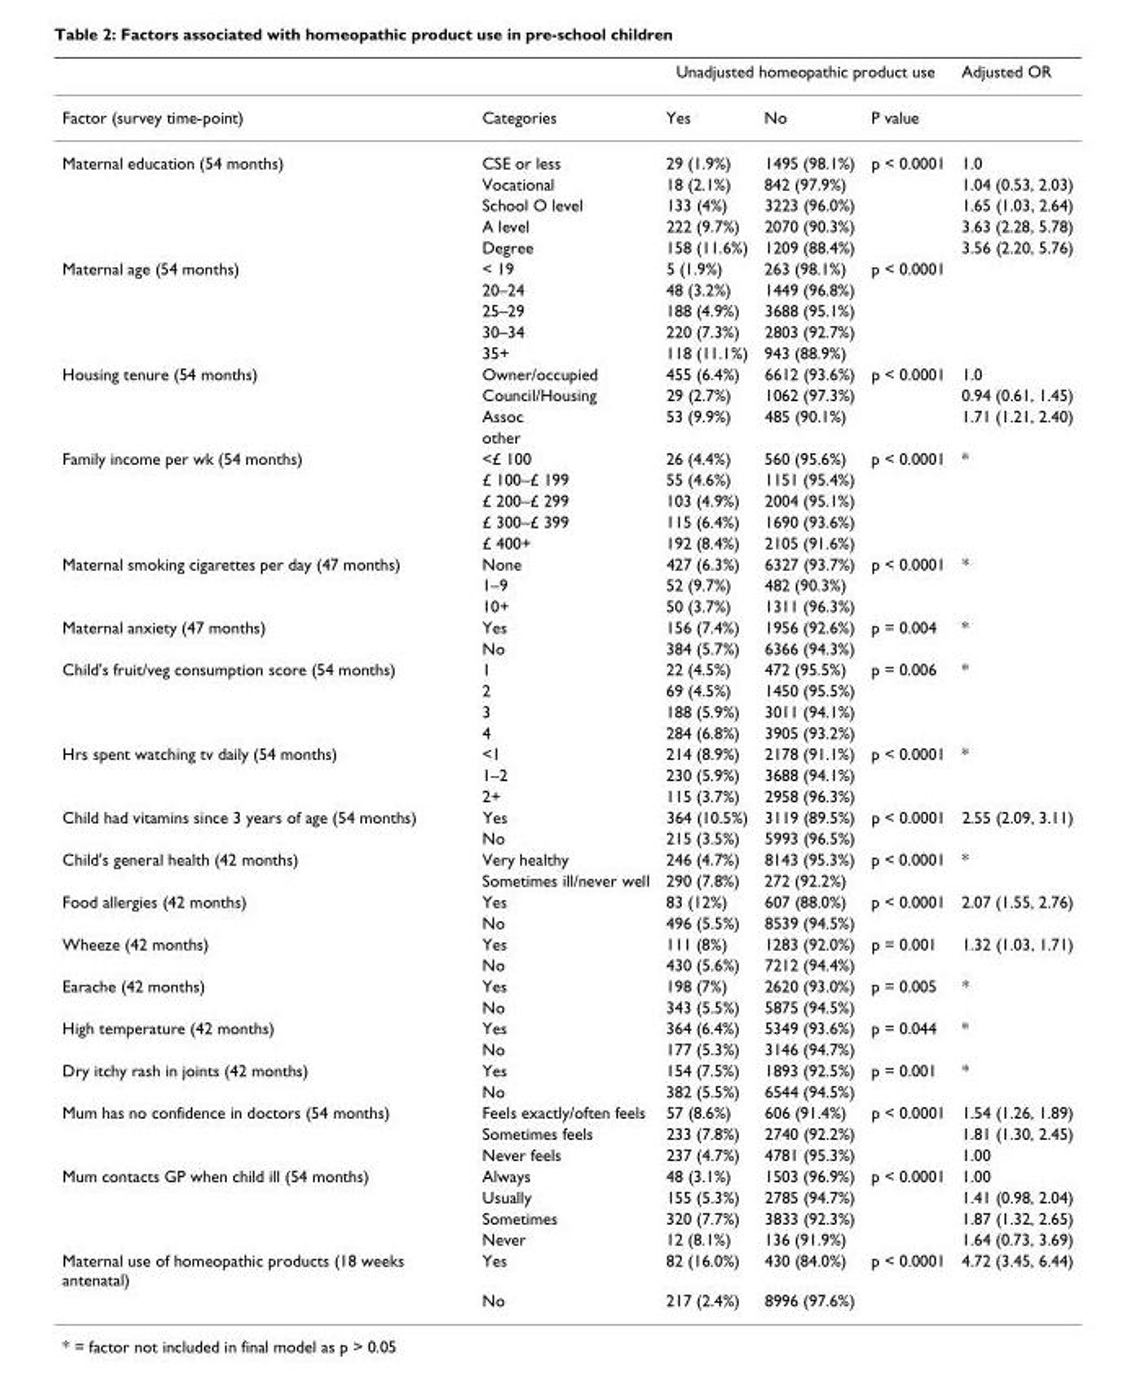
<table><thead><tr><td rowspan="2">Factor (survey time-point)</td><td rowspan="2">Categories</td><td colspan="3">Unadjusted homeopathic product use</td><td rowspan="2">Adjusted OR</td></tr><tr><td>Yes</td><td>No</td><td>P value</td></tr></thead><tbody><tr><td rowspan="5">Maternal education (54 months)</td><td>CSE or less</td><td>29 (1.9%)</td><td>1495 (98.1%)</td><td>p &lt; 0.0001</td><td>1.0</td></tr><tr><td>Vocational</td><td>18 (2.1%)</td><td>842 (97.9%)</td><td></td><td>1.04 (0.53, 2.03)</td></tr><tr><td>School O level</td><td>133 (4%)</td><td>3223 (96.0%)</td><td></td><td>1.65 (1.03, 2.64)</td></tr><tr><td>A level</td><td>222 (9.7%)</td><td>2070 (90.3%)</td><td></td><td>3.63 (2.28, 5.78)</td></tr><tr><td>Degree</td><td>158 (11.6%)</td><td>1209 (88.4%)</td><td></td><td>3.56 (2.20, 5.76)</td></tr><tr><td rowspan="5">Maternal age (54 months)</td><td>&lt; 19</td><td>5 (1.9%)</td><td>263 (98.1%)</td><td>p &lt; 0.0001</td><td></td></tr><tr><td>20–24</td><td>48 (3.2%)</td><td>1449 (96.8%)</td><td></td><td></td></tr><tr><td>25–29</td><td>188 (4.9%)</td><td>3688 (95.1%)</td><td></td><td></td></tr><tr><td>30–34</td><td>220 (7.3%)</td><td>2803 (92.7%)</td><td></td><td></td></tr><tr><td>35+</td><td>118 (11.1%)</td><td>943 (88.9%)</td><td></td><td></td></tr><tr><td rowspan="4">Housing tenure (54 months)</td><td>Owner/occupied</td><td>455 (6.4%)</td><td>6612 (93.6%)</td><td>p &lt; 0.0001</td><td>1.0</td></tr><tr><td>Council/Housing</td><td>29 (2.7%)</td><td>1062 (97.3%)</td><td></td><td>0.94 (0.61, 1.45)</td></tr><tr><td>Assoc</td><td>53 (9.9%)</td><td>485 (90.1%)</td><td></td><td>1.71 (1.21, 2.40)</td></tr><tr><td>other</td><td></td><td></td><td></td><td></td></tr><tr><td rowspan="5">Family income per wk (54 months)</td><td>&lt;£ 100</td><td>26 (4.4%)</td><td>560 (95.6%)</td><td>p &lt; 0.0001</td><td>*</td></tr><tr><td>£ 100–£ 199</td><td>55 (4.6%)</td><td>1151 (95.4%)</td><td></td><td></td></tr><tr><td>£ 200–£ 299</td><td>103 (4.9%)</td><td>2004 (95.1%)</td><td></td><td></td></tr><tr><td>£ 300–£ 399</td><td>115 (6.4%)</td><td>1690 (93.6%)</td><td></td><td></td></tr><tr><td>£ 400+</td><td>192 (8.4%)</td><td>2105 (91.6%)</td><td></td><td></td></tr><tr><td rowspan="3">Maternal smoking cigarettes per day (47 months)</td><td>None</td><td>427 (6.3%)</td><td>6327 (93.7%)</td><td>p &lt; 0.0001</td><td>*</td></tr><tr><td>1–9</td><td>52 (9.7%)</td><td>482 (90.3%)</td><td></td><td></td></tr><tr><td>10+</td><td>50 (3.7%)</td><td>1311 (96.3%)</td><td></td><td></td></tr><tr><td rowspan="2">Maternal anxiety (47 months)</td><td>Yes</td><td>156 (7.4%)</td><td>1956 (92.6%)</td><td>p = 0.004</td><td>*</td></tr><tr><td>No</td><td>384 (5.7%)</td><td>6366 (94.3%)</td><td></td><td></td></tr><tr><td rowspan="4">Child&#x27;s fruit/veg consumption score (54 months)</td><td>1</td><td>22 (4.5%)</td><td>472 (95.5%)</td><td>p = 0.006</td><td>*</td></tr><tr><td>2</td><td>69 (4.5%)</td><td>1450 (95.5%)</td><td></td><td></td></tr><tr><td>3</td><td>188 (5.9%)</td><td>3011 (94.1%)</td><td></td><td></td></tr><tr><td>4</td><td>284 (6.8%)</td><td>3905 (93.2%)</td><td></td><td></td></tr><tr><td rowspan="3">Hrs spent watching tv daily (54 months)</td><td>&lt;1</td><td>214 (8.9%)</td><td>2178 (91.1%)</td><td>p &lt; 0.0001</td><td>*</td></tr><tr><td>1–2</td><td>230 (5.9%)</td><td>3688 (94.1%)</td><td></td><td></td></tr><tr><td>2+</td><td>115 (3.7%)</td><td>2958 (96.3%)</td><td></td><td></td></tr><tr><td rowspan="2">Child had vitamins since 3 years of age (54 months)</td><td>Yes</td><td>364 (10.5%)</td><td>3119 (89.5%)</td><td>p &lt; 0.0001</td><td>2.55 (2.09, 3.11)</td></tr><tr><td>No</td><td>215 (3.5%)</td><td>5993 (96.5%)</td><td></td><td></td></tr><tr><td rowspan="2">Child&#x27;s general health (42 months)</td><td>Very healthy</td><td>246 (4.7%)</td><td>8143 (95.3%)</td><td>p &lt; 0.0001</td><td>*</td></tr><tr><td>Sometimes ill/never well</td><td>290 (7.8%)</td><td>272 (92.2%)</td><td></td><td></td></tr><tr><td rowspan="2">Food allergies (42 months)</td><td>Yes</td><td>83 (12%)</td><td>607 (88.0%)</td><td>p &lt; 0.0001</td><td>2.07 (1.55, 2.76)</td></tr><tr><td>No</td><td>496 (5.5%)</td><td>8539 (94.5%)</td><td></td><td></td></tr><tr><td rowspan="2">Wheeze (42 months)</td><td>Yes</td><td>111 (8%)</td><td>1283 (92.0%)</td><td>p = 0.001</td><td>1.32 (1.03, 1.71)</td></tr><tr><td>No</td><td>430 (5.6%)</td><td>7212 (94.4%)</td><td></td><td></td></tr><tr><td rowspan="2">Earache (42 months)</td><td>Yes</td><td>198 (7%)</td><td>2620 (93.0%)</td><td>p = 0.005</td><td>*</td></tr><tr><td>No</td><td>343 (5.5%)</td><td>5875 (94.5%)</td><td></td><td></td></tr><tr><td rowspan="2">High temperature (42 months)</td><td>Yes</td><td>364 (6.4%)</td><td>5349 (93.6%)</td><td>p = 0.044</td><td>*</td></tr><tr><td>No</td><td>177 (5.3%)</td><td>3146 (94.7%)</td><td></td><td></td></tr><tr><td rowspan="2">Dry itchy rash in joints (42 months)</td><td>Yes</td><td>154 (7.5%)</td><td>1893 (92.5%)</td><td>p = 0.001</td><td>*</td></tr><tr><td>No</td><td>382 (5.5%)</td><td>6544 (94.5%)</td><td></td><td></td></tr><tr><td rowspan="3">Mum has no confidence in doctors (54 months)</td><td>Feels exactly/often feels</td><td>57 (8.6%)</td><td>606 (91.4%)</td><td>p &lt; 0.0001</td><td>1.54 (1.26, 1.89)</td></tr><tr><td>Sometimes feels</td><td>233 (7.8%)</td><td>2740 (92.2%)</td><td></td><td>1.81 (1.30, 2.45)</td></tr><tr><td>Never feels</td><td>237 (4.7%)</td><td>4781 (95.3%)</td><td></td><td>1.00</td></tr><tr><td rowspan="4">Mum contacts GP when child ill (54 months)</td><td>Always</td><td>48 (3.1%)</td><td>1503 (96.9%)</td><td>p &lt; 0.0001</td><td>1.00</td></tr><tr><td>Usually</td><td>155 (5.3%)</td><td>2785 (94.7%)</td><td></td><td>1.41 (0.98, 2.04)</td></tr><tr><td>Sometimes</td><td>320 (7.7%)</td><td>3833 (92.3%)</td><td></td><td>1.87 (1.32, 2.65)</td></tr><tr><td>Never</td><td>12 (8.1%)</td><td>136 (91.9%)</td><td></td><td>1.64 (0.73, 3.69)</td></tr><tr><td rowspan="2">Maternal use of homeopathic products (18 weeks antenatal)</td><td>Yes</td><td>82 (16.0%)</td><td>430 (84.0%)</td><td>p &lt; 0.0001</td><td>4.72 (3.45, 6.44)</td></tr><tr><td>No</td><td>217 (2.4%)</td><td>8996 (97.6%)</td><td></td><td></td></tr></tbody></table>